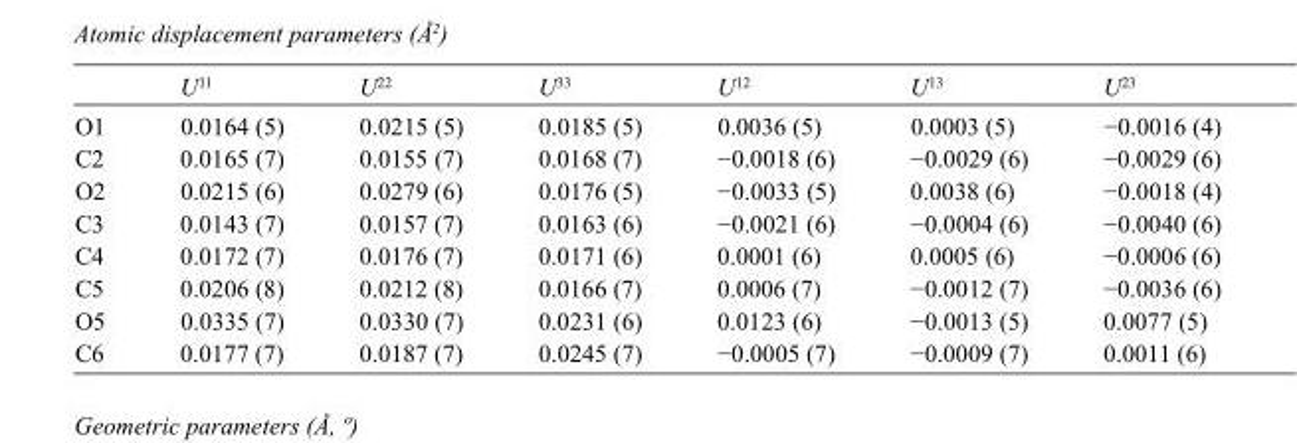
<table><thead><tr><td></td><td>U<sup>11</sup></td><td>U<sup>22</sup></td><td>U<sup>33</sup></td><td>U<sup>12</sup></td><td>U<sup>13</sup></td><td>U<sup>23</sup></td></tr></thead><tbody><tr><td>O1</td><td>0.0164 (5)</td><td>0.0215 (5)</td><td>0.0185 (5)</td><td>0.0036 (5)</td><td>0.0003 (5)</td><td>−0.0016 (4)</td></tr><tr><td>C2</td><td>0.0165 (7)</td><td>0.0155 (7)</td><td>0.0168 (7)</td><td>−0.0018 (6)</td><td>−0.0029 (6)</td><td>−0.0029 (6)</td></tr><tr><td>O2</td><td>0.0215 (6)</td><td>0.0279 (6)</td><td>0.0176 (5)</td><td>−0.0033 (5)</td><td>0.0038 (6)</td><td>−0.0018 (4)</td></tr><tr><td>C3</td><td>0.0143 (7)</td><td>0.0157 (7)</td><td>0.0163 (6)</td><td>−0.0021 (6)</td><td>−0.0004 (6)</td><td>−0.0040 (6)</td></tr><tr><td>C4</td><td>0.0172 (7)</td><td>0.0176 (7)</td><td>0.0171 (6)</td><td>0.0001 (6)</td><td>0.0005 (6)</td><td>−0.0006 (6)</td></tr><tr><td>C5</td><td>0.0206 (8)</td><td>0.0212 (8)</td><td>0.0166 (7)</td><td>0.0006 (7)</td><td>−0.0012 (7)</td><td>−0.0036 (6)</td></tr><tr><td>O5</td><td>0.0335 (7)</td><td>0.0330 (7)</td><td>0.0231 (6)</td><td>0.0123 (6)</td><td>−0.0013 (5)</td><td>0.0077 (5)</td></tr><tr><td>C6</td><td>0.0177 (7)</td><td>0.0187 (7)</td><td>0.0245 (7)</td><td>−0.0005 (7)</td><td>−0.0009 (7)</td><td>0.0011 (6)</td></tr></tbody></table>